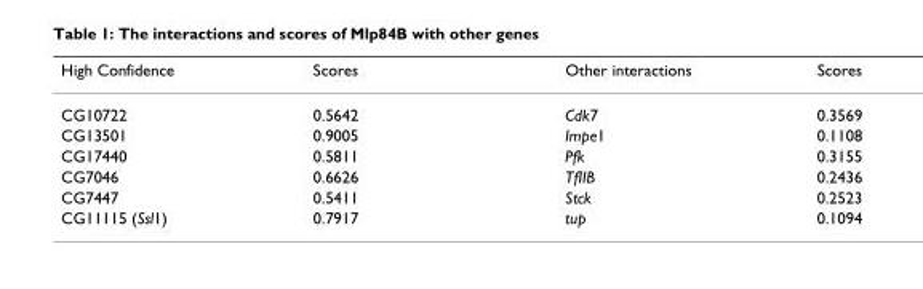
<table><thead><tr><td>High Confidence</td><td>Scores</td><td>Other interactions</td><td>Scores</td></tr></thead><tbody><tr><td>CG10722</td><td>0.5642</td><td>Cdk7</td><td>0.3569</td></tr><tr><td>CG13501</td><td>0.9005</td><td>Impe1</td><td>0.1108</td></tr><tr><td>CG17440</td><td>0.5811</td><td>Pfk</td><td>0.3155</td></tr><tr><td>CG7046</td><td>0.6626</td><td>TfIIB</td><td>0.2436</td></tr><tr><td>CG7447</td><td>0.5411</td><td>Stck</td><td>0.2523</td></tr><tr><td>CG11115 (Ssl1)</td><td>0.7917</td><td>tup</td><td>0.1094</td></tr></tbody></table>